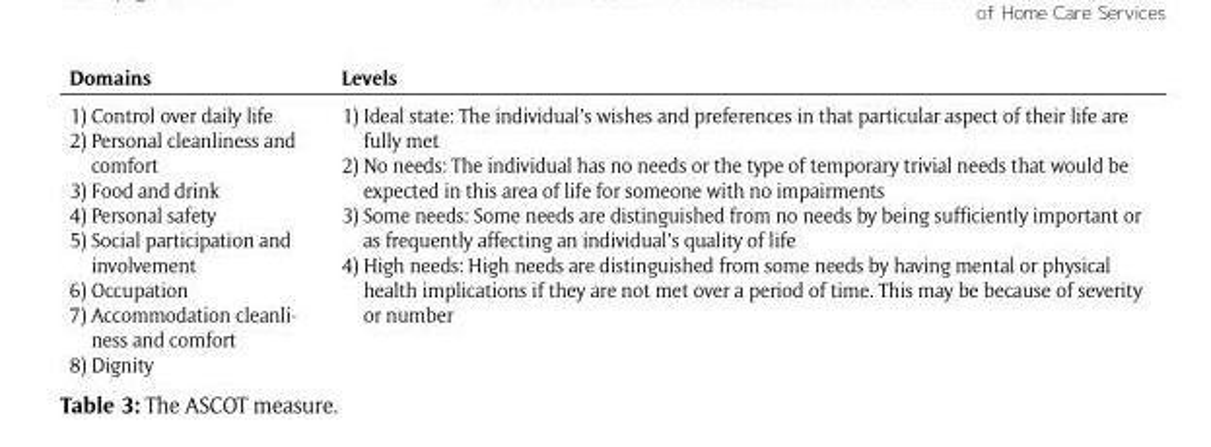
<table><thead><tr><td>Domains</td><td>Levels</td></tr></thead><tbody><tr><td>1) Control over daily life 2) Personal cleanliness and comfort 3) Food and drink 4) Personal safety 5) Social participation and involvement 6) Occupation 7) Accommodation cleanli- ness and comfort 8) Dignity</td><td>1) Ideal state: The individual’s wishes and preferences in that particular aspect of their life are fully met 2) No needs: The individual has no needs or the type of temporary trivial needs that would be expected in this area of life for someone with no impairments 3) Some needs: Some needs are distinguished from no needs by being sufficiently important or as frequently affecting an individual’s quality of life 4) High needs: High needs are distinguished from some needs by having mental or physical health implications if they are not met over a period of time. This may be because of severity or number</td></tr></tbody></table>